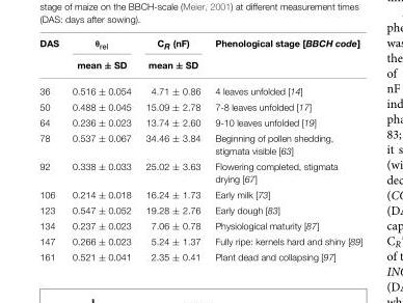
<table><thead><tr><td rowspan="2">DAS</td><td rowspan="2">θ<sub>rel</sub> mean ± SD</td><td rowspan="2">C<sub>R</sub> (nF) mean ± SD</td><td rowspan="2">Phenological stage [BBCH code]</td></tr><tr></tr></thead><tbody><tr><td>36</td><td>0.516 ± 0.054</td><td>4.71 ± 0.86</td><td>4 leaves unfolded [14]</td></tr><tr><td>50</td><td>0.488 ± 0.045</td><td>15.09 ± 2.78</td><td>7-8 leaves unfolded [17]</td></tr><tr><td>64</td><td>0.236 ± 0.023</td><td>13.74 ± 2.60</td><td>9-10 leaves unfolded [19]</td></tr><tr><td>78</td><td>0.537 ± 0.067</td><td>34.46 ± 3.84</td><td>Beginning of pollen shedding, stigmata visible [63]</td></tr><tr><td>92</td><td>0.338 ± 0.033</td><td>25.02 ± 3.63</td><td>Flowering completed, stigmata drying [67]</td></tr><tr><td>106</td><td>0.214 ± 0.018</td><td>16.24 ± 1.73</td><td>Early milk [73]</td></tr><tr><td>123</td><td>0.547 ± 0.052</td><td>19.28 ± 2.76</td><td>Early dough [83]</td></tr><tr><td>134</td><td>0.237 ± 0.023</td><td>7.06 ± 0.78</td><td>Physiological maturity [87]</td></tr><tr><td>147</td><td>0.266 ± 0.023</td><td>5.24 ± 1.37</td><td>Fully ripe: kernels hard and shiny [89]</td></tr><tr><td>161</td><td>0.521 ± 0.041</td><td>2.35 ± 0.41</td><td>Plant dead and collapsing [97]</td></tr></tbody></table>